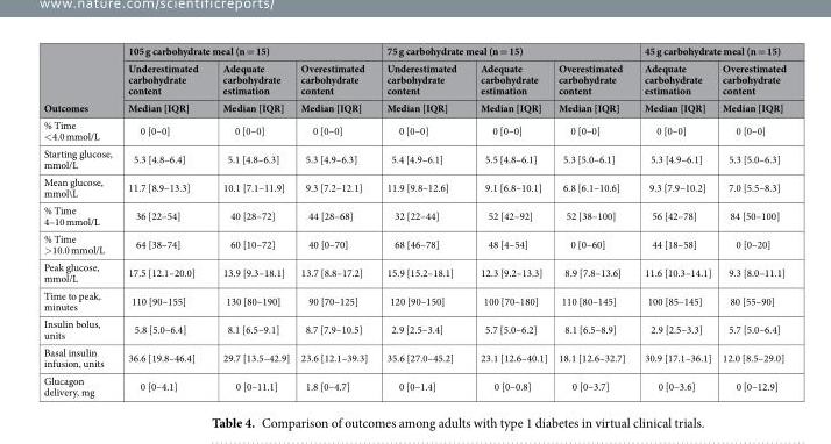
<table><thead><tr><td rowspan="3">Outcomes</td><td colspan="3">105 g carbohydrate meal (n = 15)</td><td colspan="3">75 g carbohydrate meal (n = 15)</td><td colspan="2">45 g carbohydrate meal (n = 15)</td></tr><tr><td rowspan="2">Underestimated carbohydrate content Median [IQR]</td><td rowspan="2">Adequate carbohydrate estimation Median [IQR]</td><td rowspan="2">Overestimated carbohydrate content Median [IQR]</td><td rowspan="2">Underestimated carbohydrate content Median [IQR]</td><td rowspan="2">Adequate carbohydrate estimation Median [IQR]</td><td rowspan="2">Overestimated carbohydrate content Median [IQR]</td><td rowspan="2">Adequate carbohydrate estimation Median [IQR]</td><td rowspan="2">Overestimated carbohydrate content Median [IQR]</td></tr><tr></tr></thead><tbody><tr><td>% Time &lt;4.0 mmol/L</td><td>0 [0–0]</td><td>0 [0–0]</td><td>0 [0–0]</td><td>0 [0–0]</td><td>0 [0–0]</td><td>0 [0–0]</td><td>0 [0–0]</td><td>0 [0–0]</td></tr><tr><td>Starting glucose, mmol/L</td><td>5.3 [4.8–6.4]</td><td>5.1 [4.8–6.3]</td><td>5.3 [4.9–6.3]</td><td>5.4 [4.9–6.1]</td><td>5.5 [4.8–6.1]</td><td>5.3 [5.0–6.1]</td><td>5.3 [4.9–6.1]</td><td>5.3 [5.0–6.3]</td></tr><tr><td>Mean glucose, mmol\L</td><td>11.7 [8.9–13.3]</td><td>10.1 [7.1–11.9]</td><td>9.3 [7.2–12.1]</td><td>11.9 [9.8–12.6]</td><td>9.1 [6.8–10.1]</td><td>6.8 [6.1–10.6]</td><td>9.3 [7.9–10.2]</td><td>7.0 [5.5–8.3]</td></tr><tr><td>% Time 4–10 mmol/L</td><td>36 [22–54]</td><td>40 [28–72]</td><td>44 [28–68]</td><td>32 [22–44]</td><td>52 [42–92]</td><td>52 [38–100]</td><td>56 [42–78]</td><td>84 [50–100]</td></tr><tr><td>% Time &gt;10.0 mmol/L</td><td>64 [38–74]</td><td>60 [10–72]</td><td>40 [0–70]</td><td>68 [46–78]</td><td>48 [4–54]</td><td>0 [0–60]</td><td>44 [18–58]</td><td>0 [0–20]</td></tr><tr><td>Peak glucose, mmol/L</td><td>17.5 [12.1–20.0]</td><td>13.9 [9.3–18.1]</td><td>13.7 [8.8–17.2]</td><td>15.9 [15.2–18.1]</td><td>12.3 [9.2–13.3]</td><td>8.9 [7.8–13.6]</td><td>11.6 [10.3–14.1]</td><td>9.3 [8.0–11.1]</td></tr><tr><td>Time to peak, minutes</td><td>110 [90–155]</td><td>130 [80–190]</td><td>90 [70–125]</td><td>120 [90–150]</td><td>100 [70–180]</td><td>110 [80–145]</td><td>100 [85–145]</td><td>80 [55–90]</td></tr><tr><td>Insulin bolus, units</td><td>5.8 [5.0–6.4]</td><td>8.1 [6.5–9.1]</td><td>8.7 [7.9–10.5]</td><td>2.9 [2.5–3.4]</td><td>5.7 [5.0–6.2]</td><td>8.1 [6.5–8.9]</td><td>2.9 [2.5–3.3]</td><td>5.7 [5.0–6.4]</td></tr><tr><td>Basal insulin infusion, units</td><td>36.6 [19.8–46.4]</td><td>29.7 [13.5–42.9]</td><td>23.6 [12.1–39.3]</td><td>35.6 [27.0–45.2]</td><td>23.1 [12.6–40.1]</td><td>18.1 [12.6–32.7]</td><td>30.9 [17.1–36.1]</td><td>12.0 [8.5–29.0]</td></tr><tr><td>Glucagon delivery, mg</td><td>0 [0–4.1]</td><td>0 [0–11.1]</td><td>1.8 [0–4.7]</td><td>0 [0–1.4]</td><td>0 [0–0.8]</td><td>0 [0–3.7]</td><td>0 [0–3.6]</td><td>0 [0–12.9]</td></tr></tbody></table>